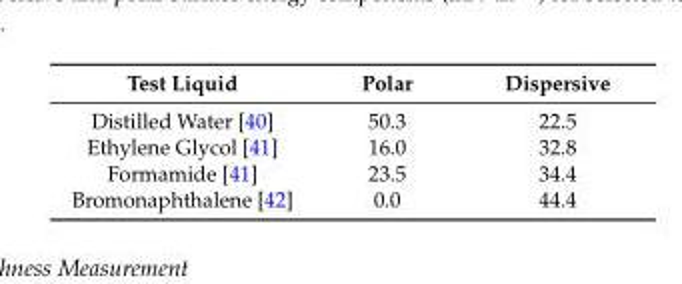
<table><thead><tr><td>Test Liquid</td><td>Polar</td><td>Dispersive</td></tr></thead><tbody><tr><td>Distilled Water [40]</td><td>50.3</td><td>22.5</td></tr><tr><td>Ethylene Glycol [41]</td><td>16.0</td><td>32.8</td></tr><tr><td>Formamide [41]</td><td>23.5</td><td>34.4</td></tr><tr><td>Bromonaphthalene [42]</td><td>0.0</td><td>44.4</td></tr></tbody></table>